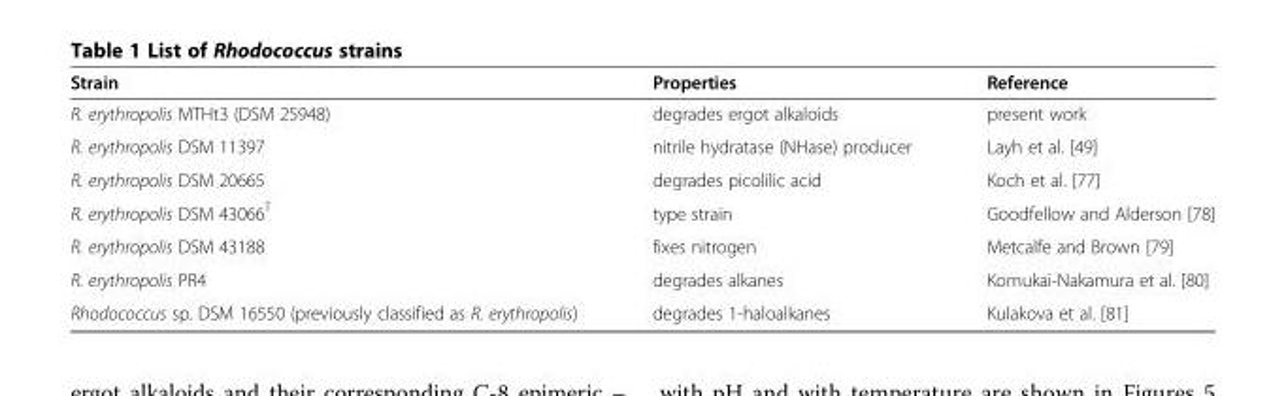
<table><thead><tr><td>Strain</td><td>Properties</td><td>Reference</td></tr></thead><tbody><tr><td>R. erythropolis MTHt3 (DSM 25948)</td><td>degrades ergot alkaloids</td><td>present work</td></tr><tr><td>R. erythropolis DSM 11397</td><td>nitrile hydratase (NHase) producer</td><td>Layh et al. [49]</td></tr><tr><td>R. erythropolis DSM 20665</td><td>degrades picolilic acid</td><td>Koch et al. [77]</td></tr><tr><td>R. erythropolis DSM 43066<sup>T</sup></td><td>type strain</td><td>Goodfellow and Alderson [78]</td></tr><tr><td>R. erythropolis DSM 43188</td><td>fixes nitrogen</td><td>Metcalfe and Brown [79]</td></tr><tr><td>R. erythropolis PR4</td><td>degrades alkanes</td><td>Komukai-Nakamura et al. [80]</td></tr><tr><td>Rhodococcus sp. DSM 16550 (previously classified as R. erythropolis)</td><td>degrades 1-haloalkanes</td><td>Kulakova et al. [81]</td></tr></tbody></table>